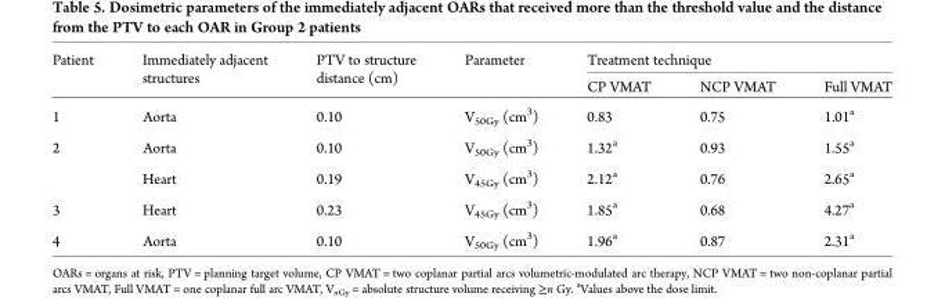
<table><thead><tr><td rowspan="2">Patient</td><td rowspan="2">Immediately adjacent structures</td><td rowspan="2">PTV to structure distance (cm)</td><td rowspan="2">Parameter</td><td colspan="3">Treatment technique</td></tr><tr><td>CP VMAT</td><td>NCP VMAT</td><td>Full VMAT</td></tr></thead><tbody><tr><td>1</td><td>Aorta</td><td>0.10</td><td>V<sub>50Gy</sub> (cm<sup>3</sup>)</td><td>0.83</td><td>0.75</td><td>1.01<sup>a</sup></td></tr><tr><td rowspan="2">2</td><td>Aorta</td><td>0.10</td><td>V<sub>50Gy</sub> (cm<sup>3</sup>)</td><td>1.32<sup>a</sup></td><td>0.93</td><td>1.55<sup>a</sup></td></tr><tr><td>Heart</td><td>0.19</td><td>V<sub>45Gy</sub> (cm<sup>3</sup>)</td><td>2.12<sup>a</sup></td><td>0.76</td><td>2.65<sup>a</sup></td></tr><tr><td>3</td><td>Heart</td><td>0.23</td><td>V<sub>45Gy</sub> (cm<sup>3</sup>)</td><td>1.85<sup>a</sup></td><td>0.68</td><td>4.27<sup>a</sup></td></tr><tr><td>4</td><td>Aorta</td><td>0.10</td><td>V<sub>50Gy</sub> (cm<sup>3</sup>)</td><td>1.96<sup>a</sup></td><td>0.87</td><td>2.31<sup>a</sup></td></tr></tbody></table>